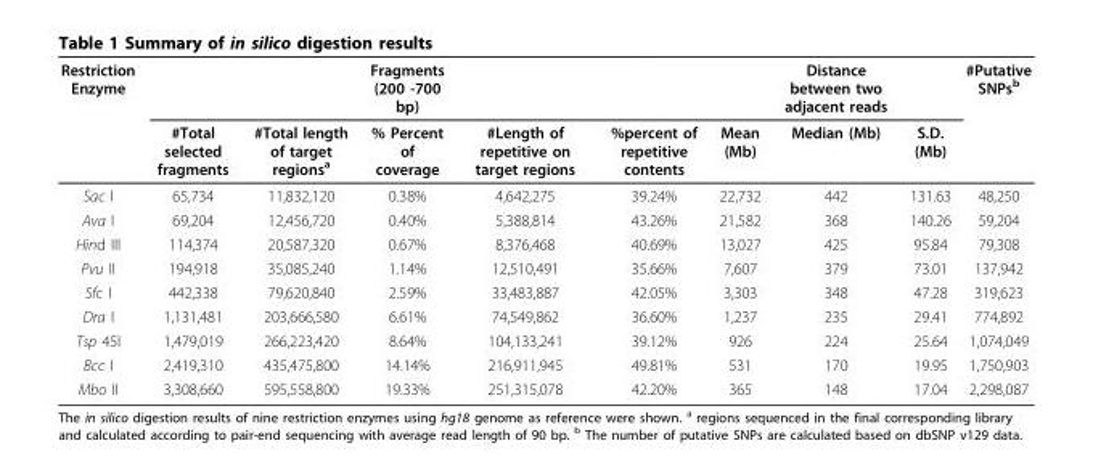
<table><thead><tr><td rowspan="2">Restriction Enzyme</td><td rowspan="2">#Total selected fragments</td><td rowspan="2">#Total length of target regions<sup>a</sup></td><td rowspan="2">Fragments (200 -700 bp) % Percent of coverage</td><td rowspan="2">#Length of repetitive on target regions</td><td rowspan="2">%percent of repetitive contents</td><td rowspan="2">Mean (Mb)</td><td rowspan="2">Distance between two adjacent reads Median (Mb)</td><td rowspan="2">S.D. (Mb)</td><td rowspan="2">#Putative SNPs<sup>b</sup></td></tr><tr></tr></thead><tbody><tr><td>Sac I</td><td>65,734</td><td>11,832,120</td><td>0.38%</td><td>4,642,275</td><td>39.24%</td><td>22,732</td><td>442</td><td>131.63</td><td>48,250</td></tr><tr><td>Ava I</td><td>69,204</td><td>12,456,720</td><td>0.40%</td><td>5,388,814</td><td>43.26%</td><td>21,582</td><td>368</td><td>140.26</td><td>59,204</td></tr><tr><td>Hind III</td><td>114,374</td><td>20,587,320</td><td>0.67%</td><td>8,376,468</td><td>40.69%</td><td>13,027</td><td>425</td><td>95.84</td><td>79,308</td></tr><tr><td>Pvu II</td><td>194,918</td><td>35,085,240</td><td>1.14%</td><td>12,510,491</td><td>35.66%</td><td>7,607</td><td>379</td><td>73.01</td><td>137,942</td></tr><tr><td>Sfc I</td><td>442,338</td><td>79,620,840</td><td>2.59%</td><td>33,483,887</td><td>42.05%</td><td>3,303</td><td>348</td><td>47.28</td><td>319,623</td></tr><tr><td>Dra I</td><td>1,131,481</td><td>203,666,580</td><td>6.61%</td><td>74,549,862</td><td>36.60%</td><td>1,237</td><td>235</td><td>29.41</td><td>774,892</td></tr><tr><td>Tsp 45I</td><td>1,479,019</td><td>266,223,420</td><td>8.64%</td><td>104,133,241</td><td>39.12%</td><td>926</td><td>224</td><td>25.64</td><td>1,074,049</td></tr><tr><td>Bcc I</td><td>2,419,310</td><td>435,475,800</td><td>14.14%</td><td>216,911,945</td><td>49.81%</td><td>531</td><td>170</td><td>19.95</td><td>1,750,903</td></tr><tr><td>Mbo II</td><td>3,308,660</td><td>595,558,800</td><td>19.33%</td><td>251,315,078</td><td>42.20%</td><td>365</td><td>148</td><td>17.04</td><td>2,298,087</td></tr></tbody></table>